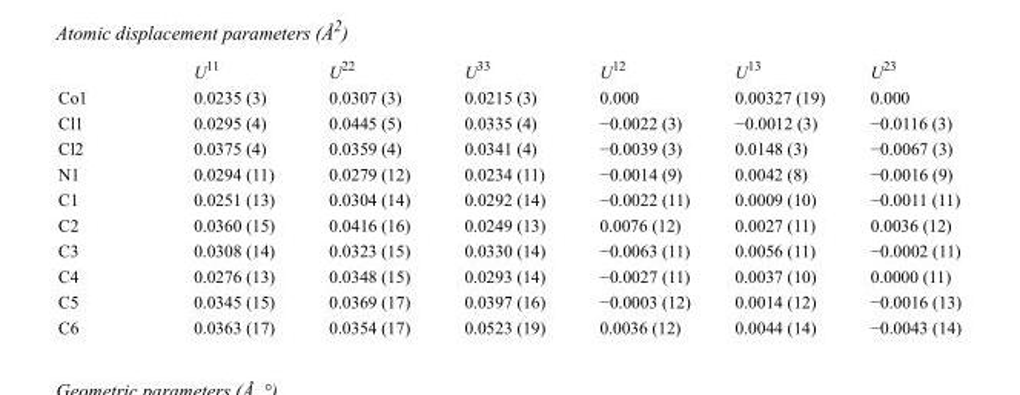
<table><thead><tr><td></td><td>U<sup>11</sup></td><td>U<sup>22</sup></td><td>U<sup>33</sup></td><td>U<sup>12</sup></td><td>U<sup>13</sup></td><td>U<sup>23</sup></td></tr></thead><tbody><tr><td>Co1</td><td>0.0235 (3)</td><td>0.0307 (3)</td><td>0.0215 (3)</td><td>0.000</td><td>0.00327 (19)</td><td>0.000</td></tr><tr><td>Cl1</td><td>0.0295 (4)</td><td>0.0445 (5)</td><td>0.0335 (4)</td><td>−0.0022 (3)</td><td>−0.0012 (3)</td><td>−0.0116 (3)</td></tr><tr><td>Cl2</td><td>0.0375 (4)</td><td>0.0359 (4)</td><td>0.0341 (4)</td><td>−0.0039 (3)</td><td>0.0148 (3)</td><td>−0.0067 (3)</td></tr><tr><td>N1</td><td>0.0294 (11)</td><td>0.0279 (12)</td><td>0.0234 (11)</td><td>−0.0014 (9)</td><td>0.0042 (8)</td><td>−0.0016 (9)</td></tr><tr><td>C1</td><td>0.0251 (13)</td><td>0.0304 (14)</td><td>0.0292 (14)</td><td>−0.0022 (11)</td><td>0.0009 (10)</td><td>−0.0011 (11)</td></tr><tr><td>C2</td><td>0.0360 (15)</td><td>0.0416 (16)</td><td>0.0249 (13)</td><td>0.0076 (12)</td><td>0.0027 (11)</td><td>0.0036 (12)</td></tr><tr><td>C3</td><td>0.0308 (14)</td><td>0.0323 (15)</td><td>0.0330 (14)</td><td>−0.0063 (11)</td><td>0.0056 (11)</td><td>−0.0002 (11)</td></tr><tr><td>C4</td><td>0.0276 (13)</td><td>0.0348 (15)</td><td>0.0293 (14)</td><td>−0.0027 (11)</td><td>0.0037 (10)</td><td>0.0000 (11)</td></tr><tr><td>C5</td><td>0.0345 (15)</td><td>0.0369 (17)</td><td>0.0397 (16)</td><td>−0.0003 (12)</td><td>0.0014 (12)</td><td>−0.0016 (13)</td></tr><tr><td>C6</td><td>0.0363 (17)</td><td>0.0354 (17)</td><td>0.0523 (19)</td><td>0.0036 (12)</td><td>0.0044 (14)</td><td>−0.0043 (14)</td></tr></tbody></table>